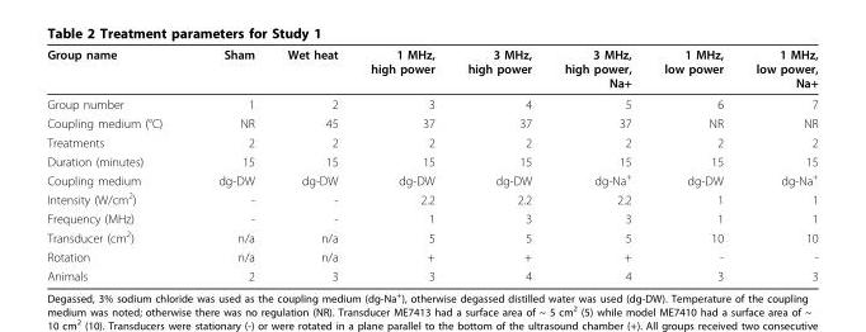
<table><thead><tr><td>Group name</td><td>Sham</td><td>Wet heat</td><td>1 MHz, high power</td><td>3 MHz, high power</td><td>3 MHz, high power, Na+</td><td>1 MHz, low power</td><td>1 MHz, low power, Na+</td></tr></thead><tbody><tr><td>Group number</td><td>1</td><td>2</td><td>3</td><td>4</td><td>5</td><td>6</td><td>7</td></tr><tr><td>Coupling medium (°C)</td><td>NR</td><td>45</td><td>37</td><td>37</td><td>37</td><td>NR</td><td>NR</td></tr><tr><td>Treatments</td><td>2</td><td>2</td><td>2</td><td>2</td><td>2</td><td>2</td><td>2</td></tr><tr><td>Duration (minutes)</td><td>15</td><td>15</td><td>15</td><td>15</td><td>15</td><td>15</td><td>15</td></tr><tr><td>Coupling medium</td><td>dg-DW</td><td>dg-DW</td><td>dg-DW</td><td>dg-DW</td><td>dg-Na<sup>+</sup></td><td>dg-DW</td><td>dg-Na<sup>+</sup></td></tr><tr><td>Intensity (W/cm<sup>2</sup>)</td><td>-</td><td>-</td><td>2.2</td><td>2.2</td><td>2.2</td><td>1</td><td>1</td></tr><tr><td>Frequency (MHz)</td><td>-</td><td>-</td><td>1</td><td>3</td><td>3</td><td>1</td><td>1</td></tr><tr><td>Transducer (cm<sup>2</sup>)</td><td>n/a</td><td>n/a</td><td>5</td><td>5</td><td>5</td><td>10</td><td>10</td></tr><tr><td>Rotation</td><td>n/a</td><td>n/a</td><td>+</td><td>+</td><td>+</td><td>-</td><td>-</td></tr><tr><td>Animals</td><td>2</td><td>3</td><td>3</td><td>4</td><td>4</td><td>3</td><td>3</td></tr></tbody></table>